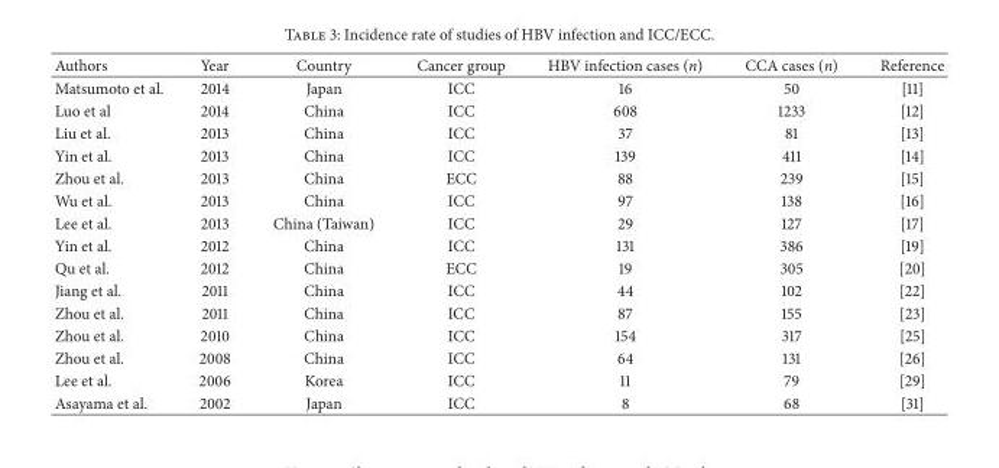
<table><thead><tr><td>Authors</td><td>Year</td><td>Country</td><td>Cancer group</td><td>HBV infection cases (n)</td><td>CCA cases (n)</td><td>Reference</td></tr></thead><tbody><tr><td>Matsumoto et al.</td><td>2014</td><td>Japan</td><td>ICC</td><td>16</td><td>50</td><td>[11]</td></tr><tr><td>Luo et al</td><td>2014</td><td>China</td><td>ICC</td><td>608</td><td>1233</td><td>[12]</td></tr><tr><td>Liu et al.</td><td>2013</td><td>China</td><td>ICC</td><td>37</td><td>81</td><td>[13]</td></tr><tr><td>Yin et al.</td><td>2013</td><td>China</td><td>ICC</td><td>139</td><td>411</td><td>[14]</td></tr><tr><td>Zhou et al.</td><td>2013</td><td>China</td><td>ECC</td><td>88</td><td>239</td><td>[15]</td></tr><tr><td>Wu et al.</td><td>2013</td><td>China</td><td>ICC</td><td>97</td><td>138</td><td>[16]</td></tr><tr><td>Lee et al.</td><td>2013</td><td>China (Taiwan)</td><td>ICC</td><td>29</td><td>127</td><td>[17]</td></tr><tr><td>Yin et al.</td><td>2012</td><td>China</td><td>ICC</td><td>131</td><td>386</td><td>[19]</td></tr><tr><td>Qu et al.</td><td>2012</td><td>China</td><td>ECC</td><td>19</td><td>305</td><td>[20]</td></tr><tr><td>Jiang et al.</td><td>2011</td><td>China</td><td>ICC</td><td>44</td><td>102</td><td>[22]</td></tr><tr><td>Zhou et al.</td><td>2011</td><td>China</td><td>ICC</td><td>87</td><td>155</td><td>[23]</td></tr><tr><td>Zhou et al.</td><td>2010</td><td>China</td><td>ICC</td><td>154</td><td>317</td><td>[25]</td></tr><tr><td>Zhou et al.</td><td>2008</td><td>China</td><td>ICC</td><td>64</td><td>131</td><td>[26]</td></tr><tr><td>Lee et al.</td><td>2006</td><td>Korea</td><td>ICC</td><td>11</td><td>79</td><td>[29]</td></tr><tr><td>Asayama et al.</td><td>2002</td><td>Japan</td><td>ICC</td><td>8</td><td>68</td><td>[31]</td></tr></tbody></table>